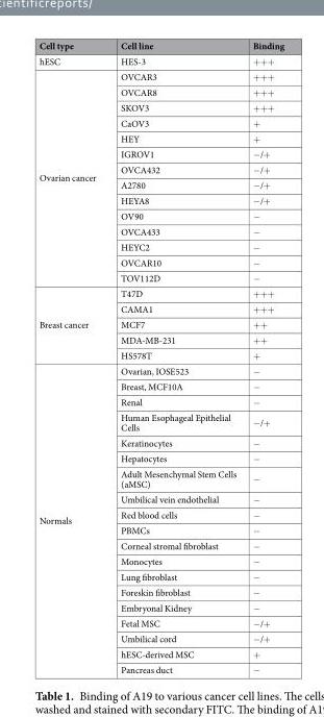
<table><thead><tr><td>Cell type</td><td>Cell line</td><td>Binding</td></tr></thead><tbody><tr><td>hESC</td><td>HES-3</td><td>+++</td></tr><tr><td rowspan="14">Ovarian cancer</td><td>OVCAR3</td><td>+++</td></tr><tr><td>OVCAR8</td><td>+++</td></tr><tr><td>SKOV3</td><td>+++</td></tr><tr><td>CaOV3</td><td>+</td></tr><tr><td>HEY</td><td>+</td></tr><tr><td>IGROV1</td><td>−/+</td></tr><tr><td>OVCA432</td><td>−/+</td></tr><tr><td>A2780</td><td>−/+</td></tr><tr><td>HEYA8</td><td>−/+</td></tr><tr><td>OV90</td><td>−</td></tr><tr><td>OVCA433</td><td>−</td></tr><tr><td>HEYC2</td><td>−</td></tr><tr><td>OVCAR10</td><td>−</td></tr><tr><td>TOV112D</td><td>−</td></tr><tr><td rowspan="5">Breast cancer</td><td>T47D</td><td>+++</td></tr><tr><td>CAMA1</td><td>+++</td></tr><tr><td>MCF7</td><td>++</td></tr><tr><td>MDA-MB-231</td><td>++</td></tr><tr><td>HS578T</td><td>+</td></tr><tr><td rowspan="19">Normals</td><td>Ovarian, IOSE523</td><td>−</td></tr><tr><td>Breast, MCF10A</td><td>−</td></tr><tr><td>Renal</td><td>−</td></tr><tr><td>Human Esophageal Epithelial Cells</td><td>−/+</td></tr><tr><td>Keratinocytes</td><td>−</td></tr><tr><td>Hepatocytes</td><td>−</td></tr><tr><td>Adult Mesenchymal Stem Cells (aMSC)</td><td>−</td></tr><tr><td>Umbilical vein endothelial</td><td>−</td></tr><tr><td>Red blood cells</td><td>−</td></tr><tr><td>PBMCs</td><td>−</td></tr><tr><td>Corneal stromal fibroblast</td><td>−</td></tr><tr><td>Monocytes</td><td>−</td></tr><tr><td>Lung fibroblast</td><td>−</td></tr><tr><td>Foreskin fibroblast</td><td>−</td></tr><tr><td>Embryonal Kidney</td><td>−</td></tr><tr><td>Fetal MSC</td><td>−/+</td></tr><tr><td>Umbilical cord</td><td>−/+</td></tr><tr><td>hESC-derived MSC</td><td>+</td></tr><tr><td>Pancreas duct</td><td>−</td></tr></tbody></table>